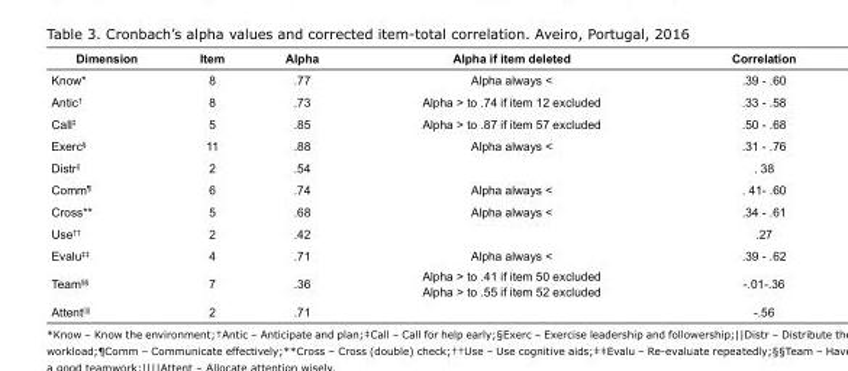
<table><tbody><tr><td>Dimension</td><td>Item</td><td>Alpha</td><td>Alpha if item deleted</td><td>Correlation</td></tr><tr><td>Know*</td><td>8</td><td>.77</td><td>Alpha always &lt;</td><td>.39 - .60</td></tr><tr><td>Antic<sup>†</sup></td><td>8</td><td>.73</td><td>Alpha &gt; to .74 if item 12 excluded</td><td>.33 - .58</td></tr><tr><td>Call<sup>‡</sup></td><td>5</td><td>.85</td><td>Alpha &gt; to .87 if item 57 excluded</td><td>.50 - .68</td></tr><tr><td>Exerc<sup>§</sup></td><td>11</td><td>.88</td><td>Alpha always &lt;</td><td>.31 - .76</td></tr><tr><td>Distr<sup>||</sup></td><td>2</td><td>.54</td><td></td><td>. 38</td></tr><tr><td>Comm<sup>¶</sup></td><td>6</td><td>.74</td><td>Alpha always &lt;</td><td>. 41- .60</td></tr><tr><td>Cross**</td><td>5</td><td>.68</td><td>Alpha always &lt;</td><td>.34 - .61</td></tr><tr><td>Use<sup>††</sup></td><td>2</td><td>.42</td><td></td><td>.27</td></tr><tr><td>Evalu<sup>‡‡</sup></td><td>4</td><td>.71</td><td>Alpha always &lt;</td><td>.39 - .62</td></tr><tr><td>Team<sup>§§</sup></td><td>7</td><td>.36</td><td>Alpha &gt; to .41 if item 50 excluded Alpha &gt; to .55 if item 52 excluded</td><td>-.01-.36</td></tr><tr><td>Attent<sup>||||</sup></td><td>2</td><td>.71</td><td></td><td>-.56</td></tr></tbody></table>